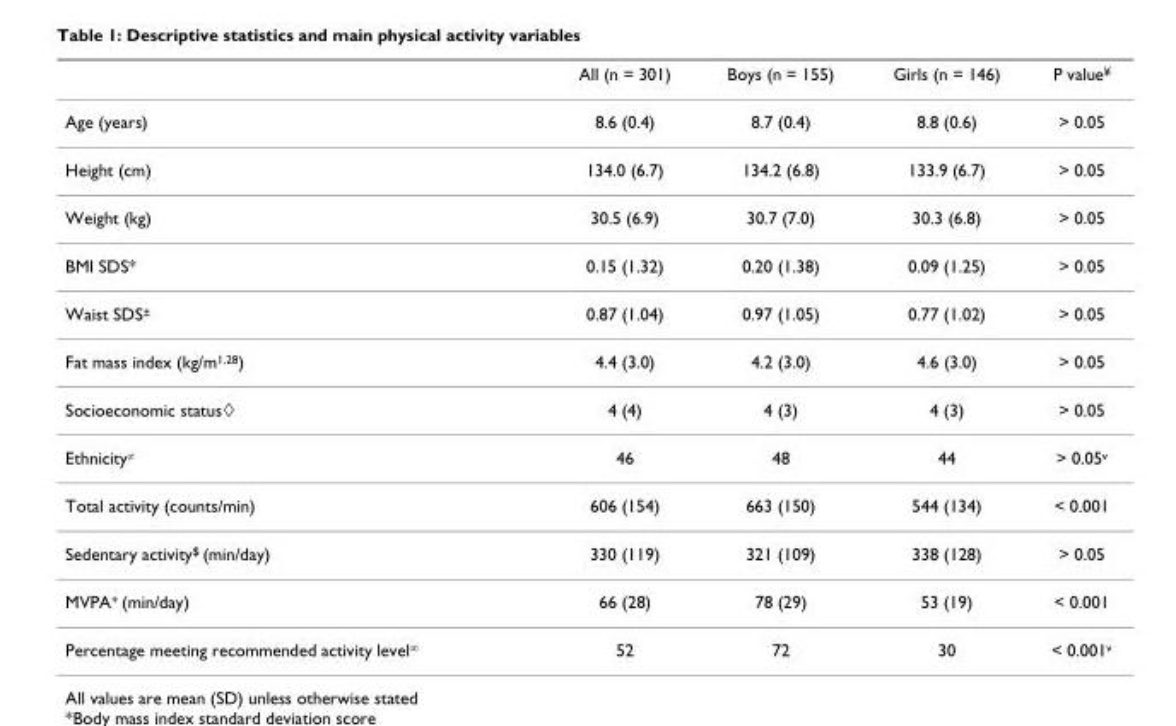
<table><thead><tr><td></td><td>All (n = 301)</td><td>Boys (n = 155)</td><td>Girls (n = 146)</td><td>P value<sup>¥</sup></td></tr></thead><tbody><tr><td>Age (years)</td><td>8.6 (0.4)</td><td>8.7 (0.4)</td><td>8.8 (0.6)</td><td>&gt; 0.05</td></tr><tr><td>Height (cm)</td><td>134.0 (6.7)</td><td>134.2 (6.8)</td><td>133.9 (6.7)</td><td>&gt; 0.05</td></tr><tr><td>Weight (kg)</td><td>30.5 (6.9)</td><td>30.7 (7.0)</td><td>30.3 (6.8)</td><td>&gt; 0.05</td></tr><tr><td>BMI SDS*</td><td>0.15 (1.32)</td><td>0.20 (1.38)</td><td>0.09 (1.25)</td><td>&gt; 0.05</td></tr><tr><td>Waist SDS<sup>±</sup></td><td>0.87 (1.04)</td><td>0.97 (1.05)</td><td>0.77 (1.02)</td><td>&gt; 0.05</td></tr><tr><td>Fat mass index (kg/m<sup>1.28</sup>)</td><td>4.4 (3.0)</td><td>4.2 (3.0)</td><td>4.6 (3.0)</td><td>&gt; 0.05</td></tr><tr><td>Socioeconomic status<sup>◇</sup></td><td>4 (4)</td><td>4 (3)</td><td>4 (3)</td><td>&gt; 0.05</td></tr><tr><td>Ethnicity<sup>≠</sup></td><td>46</td><td>48</td><td>44</td><td>&gt; 0.05<sup>v</sup></td></tr><tr><td>Total activity (counts/min)</td><td>606 (154)</td><td>663 (150)</td><td>544 (134)</td><td>&lt; 0.001</td></tr><tr><td>Sedentary activity<sup>$</sup> (min/day)</td><td>330 (119)</td><td>321 (109)</td><td>338 (128)</td><td>&gt; 0.05</td></tr><tr><td>MVPA<sup>+</sup> (min/day)</td><td>66 (28)</td><td>78 (29)</td><td>53 (19)</td><td>&lt; 0.001</td></tr><tr><td>Percentage meeting recommended activity level<sup>∞</sup></td><td>52</td><td>72</td><td>30</td><td>&lt; 0.001<sup>v</sup></td></tr></tbody></table>